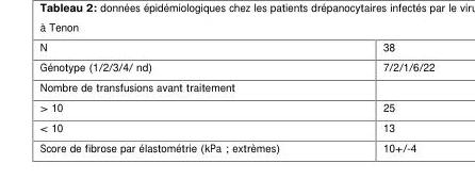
<table><thead><tr><td>N</td><td>38</td></tr></thead><tbody><tr><td>Génotype (1/2/3/4/ nd)</td><td>7/2/1/6/22</td></tr><tr><td colspan="2">Nombre de transfusions avant traitement</td></tr><tr><td>&gt; 10</td><td>25</td></tr><tr><td>&lt; 10</td><td>13</td></tr><tr><td>Score de fibrose par élastométrie (kPa ; extrèmes)</td><td>10+/-4</td></tr></tbody></table>